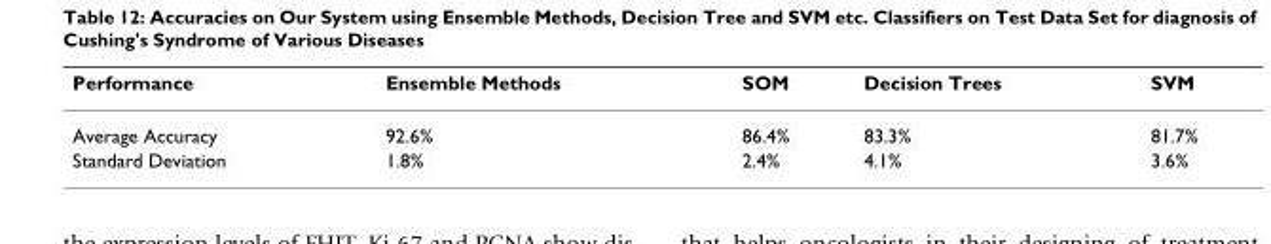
<table><thead><tr><td>Performance</td><td>Ensemble Methods</td><td>SOM</td><td>Decision Trees</td><td>SVM</td></tr></thead><tbody><tr><td>Average Accuracy</td><td>92.6%</td><td>86.4%</td><td>83.3%</td><td>81.7%</td></tr><tr><td>Standard Deviation</td><td>1.8%</td><td>2.4%</td><td>4.1%</td><td>3.6%</td></tr></tbody></table>